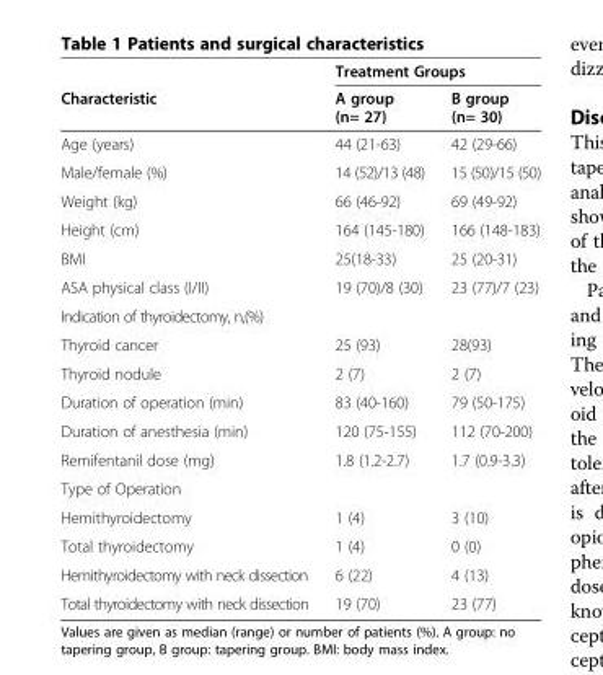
<table><thead><tr><td rowspan="2">Characteristic</td><td colspan="2">Treatment Groups</td></tr><tr><td>A group (n= 27)</td><td>B group (n= 30)</td></tr></thead><tbody><tr><td>Age (years)</td><td>44 (21-63)</td><td>42 (29-66)</td></tr><tr><td>Male/female (%)</td><td>14 (52)/13 (48)</td><td>15 (50)/15 (50)</td></tr><tr><td>Weight (kg)</td><td>66 (46-92)</td><td>69 (49-92)</td></tr><tr><td>Height (cm)</td><td>164 (145-180)</td><td>166 (148-183)</td></tr><tr><td>BMI</td><td>25(18-33)</td><td>25 (20-31)</td></tr><tr><td>ASA physical class (I/II)</td><td>19 (70)/8 (30)</td><td>23 (77)/7 (23)</td></tr><tr><td colspan="3">Indication of thyroidectomy, n,(%)</td></tr><tr><td>Thyroid cancer</td><td>25 (93)</td><td>28(93)</td></tr><tr><td>Thyroid nodule</td><td>2 (7)</td><td>2 (7)</td></tr><tr><td>Duration of operation (min)</td><td>83 (40-160)</td><td>79 (50-175)</td></tr><tr><td>Duration of anesthesia (min)</td><td>120 (75-155)</td><td>112 (70-200)</td></tr><tr><td>Remifentanil dose (mg)</td><td>1.8 (1.2-2.7)</td><td>1.7 (0.9-3.3)</td></tr><tr><td colspan="3">Type of Operation</td></tr><tr><td>Hemithyroidectomy</td><td>1 (4)</td><td>3 (10)</td></tr><tr><td>Total thyroidectomy</td><td>1 (4)</td><td>0 (0)</td></tr><tr><td>Hemithyroidectomy with neck dissection</td><td>6 (22)</td><td>4 (13)</td></tr><tr><td>Total thyroidectomy with neck dissection</td><td>19 (70)</td><td>23 (77)</td></tr></tbody></table>